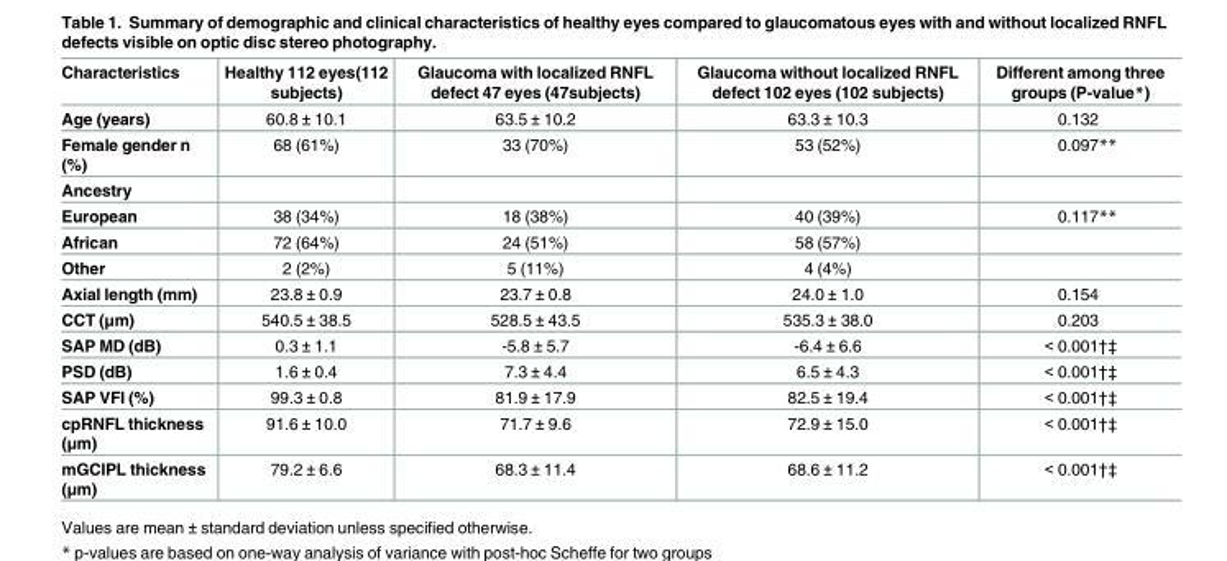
<table><thead><tr><td>Characteristics</td><td>Healthy 112 eyes(112 subjects)</td><td>Glaucoma with localized RNFL defect 47 eyes (47subjects)</td><td>Glaucoma without localized RNFL defect 102 eyes (102 subjects)</td><td>Different among three groups (P-value*)</td></tr></thead><tbody><tr><td>Age (years)</td><td>60.8 ± 10.1</td><td>63.5 ± 10.2</td><td>63.3 ± 10.3</td><td>0.132</td></tr><tr><td>Female gender n (%)</td><td>68 (61%)</td><td>33 (70%)</td><td>53 (52%)</td><td>0.097**</td></tr><tr><td colspan="5">Ancestry</td></tr><tr><td>European</td><td>38 (34%)</td><td>18 (38%)</td><td>40 (39%)</td><td>0.117**</td></tr><tr><td>African</td><td>72 (64%)</td><td>24 (51%)</td><td>58 (57%)</td><td></td></tr><tr><td>Other</td><td>2 (2%)</td><td>5 (11%)</td><td>4 (4%)</td><td></td></tr><tr><td>Axial length (mm)</td><td>23.8 ± 0.9</td><td>23.7 ± 0.8</td><td>24.0 ± 1.0</td><td>0.154</td></tr><tr><td>CCT (μm)</td><td>540.5 ± 38.5</td><td>528.5 ± 43.5</td><td>535.3 ± 38.0</td><td>0.203</td></tr><tr><td>SAP MD (dB)</td><td>0.3 ± 1.1</td><td>-5.8 ± 5.7</td><td>-6.4 ± 6.6</td><td>&lt; 0.001†‡</td></tr><tr><td>PSD (dB)</td><td>1.6 ± 0.4</td><td>7.3 ± 4.4</td><td>6.5 ± 4.3</td><td>&lt; 0.001†‡</td></tr><tr><td>SAP VFI (%)</td><td>99.3 ± 0.8</td><td>81.9 ± 17.9</td><td>82.5 ± 19.4</td><td>&lt; 0.001†‡</td></tr><tr><td>cpRNFL thickness (μm)</td><td>91.6 ± 10.0</td><td>71.7 ± 9.6</td><td>72.9 ± 15.0</td><td>&lt; 0.001†‡</td></tr><tr><td>mGCIPL thickness (μm)</td><td>79.2 ± 6.6</td><td>68.3 ± 11.4</td><td>68.6 ± 11.2</td><td>&lt; 0.001†‡</td></tr></tbody></table>